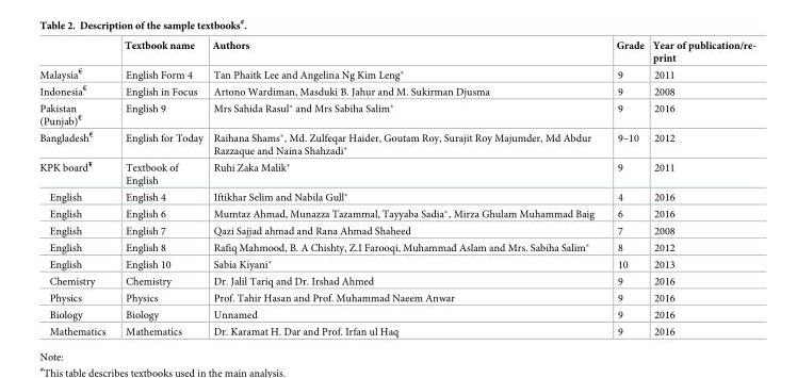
<table><thead><tr><td></td><td>Textbook name</td><td>Authors</td><td>Grade</td><td>Year of publication/re- print</td></tr></thead><tbody><tr><td>Malaysia<sup>€</sup></td><td>English Form 4</td><td>Tan Phaitk Lee and Angelina Ng Kim Leng*</td><td>9</td><td>2011</td></tr><tr><td>Indonesia<sup>€</sup></td><td>English in Focus</td><td>Artono Wardiman, Masduki B. Jahur and M. Sukirman Djusma</td><td>9</td><td>2008</td></tr><tr><td>Pakistan (Punjab)<sup>€</sup></td><td>English 9</td><td>Mrs Sahida Rasul* and Mrs Sabiha Salim*</td><td>9</td><td>2016</td></tr><tr><td>Bangladesh<sup>€</sup></td><td>English for Today</td><td>Raihana Shams*, Md. Zulfeqar Haider, Goutam Roy, Surajit Roy Majumder, Md Abdur Razzaque and Naina Shahzadi*</td><td>9–10</td><td>2012</td></tr><tr><td>KPK board<sup>¥</sup></td><td>Textbook of English</td><td>Ruhi Zaka Malik*</td><td>9</td><td>2011</td></tr><tr><td>English</td><td>English 4</td><td>Iftikhar Selim and Nabila Gull*</td><td>4</td><td>2016</td></tr><tr><td>English</td><td>English 6</td><td>Mumtaz Ahmad, Munazza Tazammal, Tayyaba Sadia*, Mirza Ghulam Muhammad Baig</td><td>6</td><td>2016</td></tr><tr><td>English</td><td>English 7</td><td>Qazi Sajjad ahmad and Rana Ahmad Shaheed</td><td>7</td><td>2008</td></tr><tr><td>English</td><td>English 8</td><td>Rafiq Mahmood, B. A Chishty, Z.I Farooqi, Muhammad Aslam and Mrs. Sabiha Salim*</td><td>8</td><td>2012</td></tr><tr><td>English</td><td>English 10</td><td>Sabia Kiyani*</td><td>10</td><td>2013</td></tr><tr><td>Chemistry</td><td>Chemistry</td><td>Dr. Jalil Tariq and Dr. Irshad Ahmed</td><td>9</td><td>2016</td></tr><tr><td>Physics</td><td>Physics</td><td>Prof. Tahir Hasan and Prof. Muhammad Naeem Anwar</td><td>9</td><td>2016</td></tr><tr><td>Biology</td><td>Biology</td><td>Unnamed</td><td>9</td><td>2016</td></tr><tr><td>Mathematics</td><td>Mathematics</td><td>Dr. Karamat H. Dar and Prof. Irfan ul Haq</td><td>9</td><td>2016</td></tr></tbody></table>